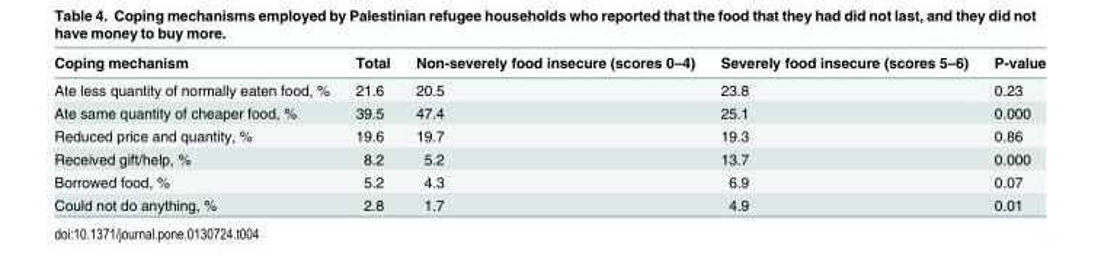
<table><thead><tr><td>Coping mechanism</td><td>Total</td><td>Non-severely food insecure (scores 0–4)</td><td>Severely food insecure (scores 5–6)</td><td>P-value</td></tr></thead><tbody><tr><td>Ate less quantity of normally eaten food, %</td><td>21.6</td><td>20.5</td><td>23.8</td><td>0.23</td></tr><tr><td>Ate same quantity of cheaper food, %</td><td>39.5</td><td>47.4</td><td>25.1</td><td>0.000</td></tr><tr><td>Reduced price and quantity, %</td><td>19.6</td><td>19.7</td><td>19.3</td><td>0.86</td></tr><tr><td>Received gift/help, %</td><td>8.2</td><td>5.2</td><td>13.7</td><td>0.000</td></tr><tr><td>Borrowed food, %</td><td>5.2</td><td>4.3</td><td>6.9</td><td>0.07</td></tr><tr><td>Could not do anything, %</td><td>2.8</td><td>1.7</td><td>4.9</td><td>0.01</td></tr></tbody></table>